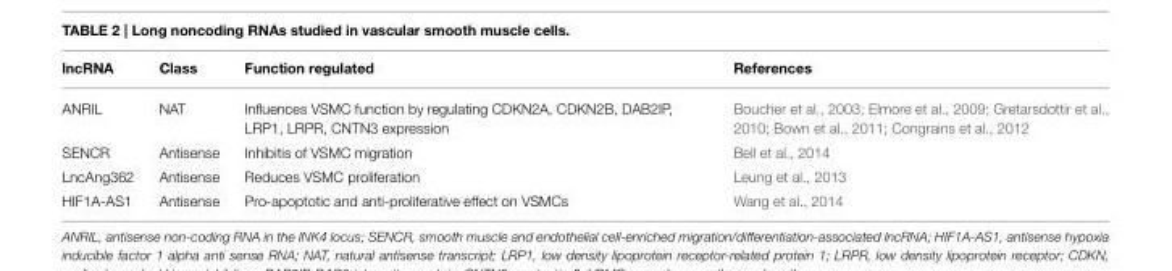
<table><thead><tr><td>lncRNA</td><td>Class</td><td>Function regulated</td><td>References</td></tr></thead><tbody><tr><td>ANRIL</td><td>NAT</td><td>Influences VSMC function by regulating CDKN2A, CDKN2B, DAB2IP, LRP1, LRPR, CNTN3 expression</td><td>Boucher et al., 2003; Elmore et al., 2009; Gretarsdottir et al., 2010; Bown et al., 2011; Congrains et al., 2012</td></tr><tr><td>SENCR</td><td>Antisense</td><td>Inhibitis of VSMC migration</td><td>Bell et al., 2014</td></tr><tr><td>LncAng362</td><td>Antisense</td><td>Reduces VSMC proliferation</td><td>Leung et al., 2013</td></tr><tr><td>HIF1A-AS1</td><td>Antisense</td><td>Pro-apoptotic and anti-proliferative effect on VSMCs</td><td>Wang et al., 2014</td></tr></tbody></table>